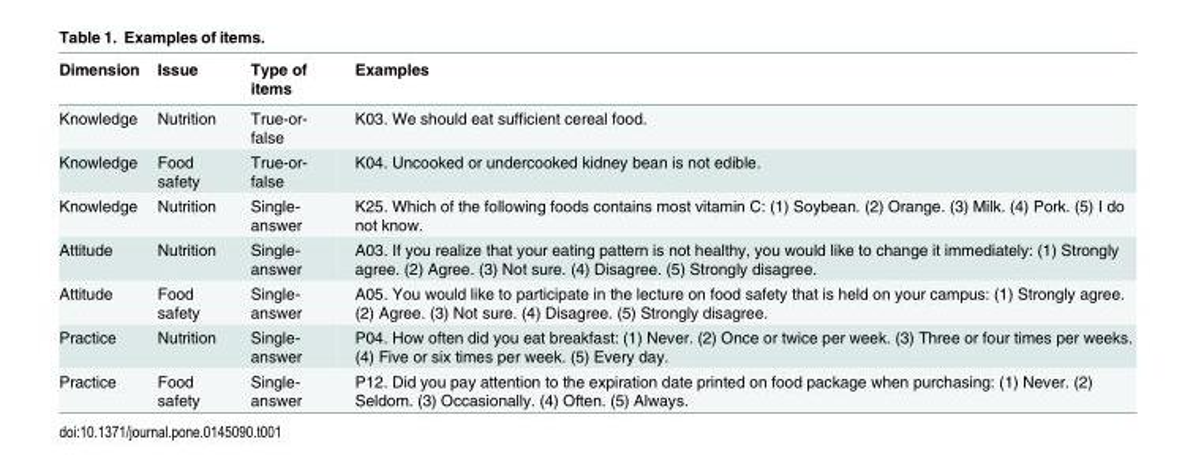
<table><thead><tr><td>Dimension</td><td>Issue</td><td>Type of items</td><td>Examples</td></tr></thead><tbody><tr><td>Knowledge</td><td>Nutrition</td><td>True-or- false</td><td>K03. We should eat sufficient cereal food.</td></tr><tr><td>Knowledge</td><td>Food safety</td><td>True-or- false</td><td>K04. Uncooked or undercooked kidney bean is not edible.</td></tr><tr><td>Knowledge</td><td>Nutrition</td><td>Single- answer</td><td>K25. Which of the following foods contains most vitamin C: (1) Soybean. (2) Orange. (3) Milk. (4) Pork. (5) I do not know.</td></tr><tr><td>Attitude</td><td>Nutrition</td><td>Single- answer</td><td>A03. If you realize that your eating pattern is not healthy, you would like to change it immediately: (1) Strongly agree. (2) Agree. (3) Not sure. (4) Disagree. (5) Strongly disagree.</td></tr><tr><td>Attitude</td><td>Food safety</td><td>Single- answer</td><td>A05. You would like to participate in the lecture on food safety that is held on your campus: (1) Strongly agree. (2) Agree. (3) Not sure. (4) Disagree. (5) Strongly disagree.</td></tr><tr><td>Practice</td><td>Nutrition</td><td>Single- answer</td><td>P04. How often did you eat breakfast: (1) Never. (2) Once or twice per week. (3) Three or four times per weeks. (4) Five or six times per week. (5) Every day.</td></tr><tr><td>Practice</td><td>Food safety</td><td>Single- answer</td><td>P12. Did you pay attention to the expiration date printed on food package when purchasing: (1) Never. (2) Seldom. (3) Occasionally. (4) Often. (5) Always.</td></tr></tbody></table>